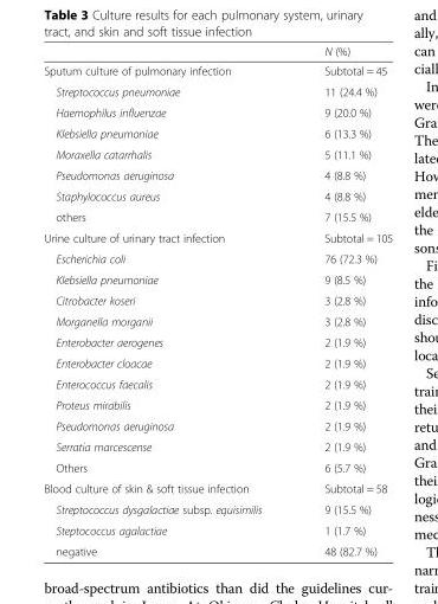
<table><thead><tr><td></td><td>N (%)</td></tr></thead><tbody><tr><td>Sputum culture of pulmonary infection</td><td>Subtotal = 45</td></tr><tr><td>Streptococcus pneumoniae</td><td>11 (24.4 %)</td></tr><tr><td>Haemophilus influenzae</td><td>9 (20.0 %)</td></tr><tr><td>Klebsiella pneumoniae</td><td>6 (13.3 %)</td></tr><tr><td>Moraxella catarrhalis</td><td>5 (11.1 %)</td></tr><tr><td>Pseudomonas aeruginosa</td><td>4 (8.8 %)</td></tr><tr><td>Staphylococcus aureus</td><td>4 (8.8 %)</td></tr><tr><td>others</td><td>7 (15.5 %)</td></tr><tr><td>Urine culture of urinary tract infection</td><td>Subtotal = 105</td></tr><tr><td>Escherichia coli</td><td>76 (72.3 %)</td></tr><tr><td>Klebsiella pneumoniae</td><td>9 (8.5 %)</td></tr><tr><td>Citrobacter koseri</td><td>3 (2.8 %)</td></tr><tr><td>Morganella morganii</td><td>3 (2.8 %)</td></tr><tr><td>Enterobacter aerogenes</td><td>2 (1.9 %)</td></tr><tr><td>Enterobacter cloacae</td><td>2 (1.9 %)</td></tr><tr><td>Enterococcus faecalis</td><td>2 (1.9 %)</td></tr><tr><td>Proteus mirabilis</td><td>2 (1.9 %)</td></tr><tr><td>Pseudomonas aeruginosa</td><td>2 (1.9 %)</td></tr><tr><td>Serratia marcescense</td><td>2 (1.9 %)</td></tr><tr><td>Others</td><td>6 (5.7 %)</td></tr><tr><td>Blood culture of skin &amp; soft tissue infection</td><td>Subtotal = 58</td></tr><tr><td>Streptococcus dysgalactiae subsp. equisimilis</td><td>9 (15.5 %)</td></tr><tr><td>Steptococcus agalactiae</td><td>1 (1.7 %)</td></tr><tr><td>negative</td><td>48 (82.7 %)</td></tr></tbody></table>